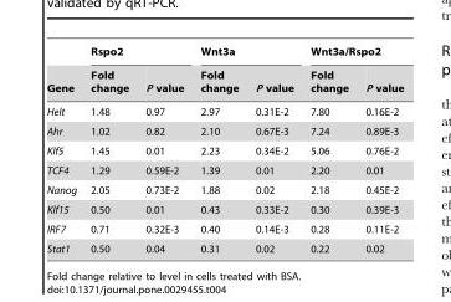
<table><thead><tr><td rowspan="2">Gene</td><td colspan="2">Rspo2</td><td colspan="2">Wnt3a</td><td colspan="2">Wnt3a/Rspo2</td></tr><tr><td>Fold change</td><td>P value</td><td>Fold change</td><td>P value</td><td>Fold change</td><td>P value</td></tr></thead><tbody><tr><td>Helt</td><td>1.48</td><td>0.97</td><td>2.97</td><td>0.31E-2</td><td>7.80</td><td>0.16E-2</td></tr><tr><td>Ahr</td><td>1.02</td><td>0.82</td><td>2.10</td><td>0.67E-3</td><td>7.24</td><td>0.89E-3</td></tr><tr><td>Klf5</td><td>1.45</td><td>0.01</td><td>2.23</td><td>0.34E-2</td><td>5.06</td><td>0.76E-2</td></tr><tr><td>TCF4</td><td>1.29</td><td>0.59E-2</td><td>1.39</td><td>0.01</td><td>2.20</td><td>0.01</td></tr><tr><td>Nanog</td><td>2.05</td><td>0.73E-2</td><td>1.88</td><td>0.02</td><td>2.18</td><td>0.45E-2</td></tr><tr><td>Klf15</td><td>0.50</td><td>0.01</td><td>0.43</td><td>0.33E-2</td><td>0.30</td><td>0.39E-3</td></tr><tr><td>IRF7</td><td>0.71</td><td>0.32E-3</td><td>0.40</td><td>0.14E-3</td><td>0.28</td><td>0.11E-2</td></tr><tr><td>Stat1</td><td>0.50</td><td>0.04</td><td>0.31</td><td>0.02</td><td>0.22</td><td>0.02</td></tr></tbody></table>